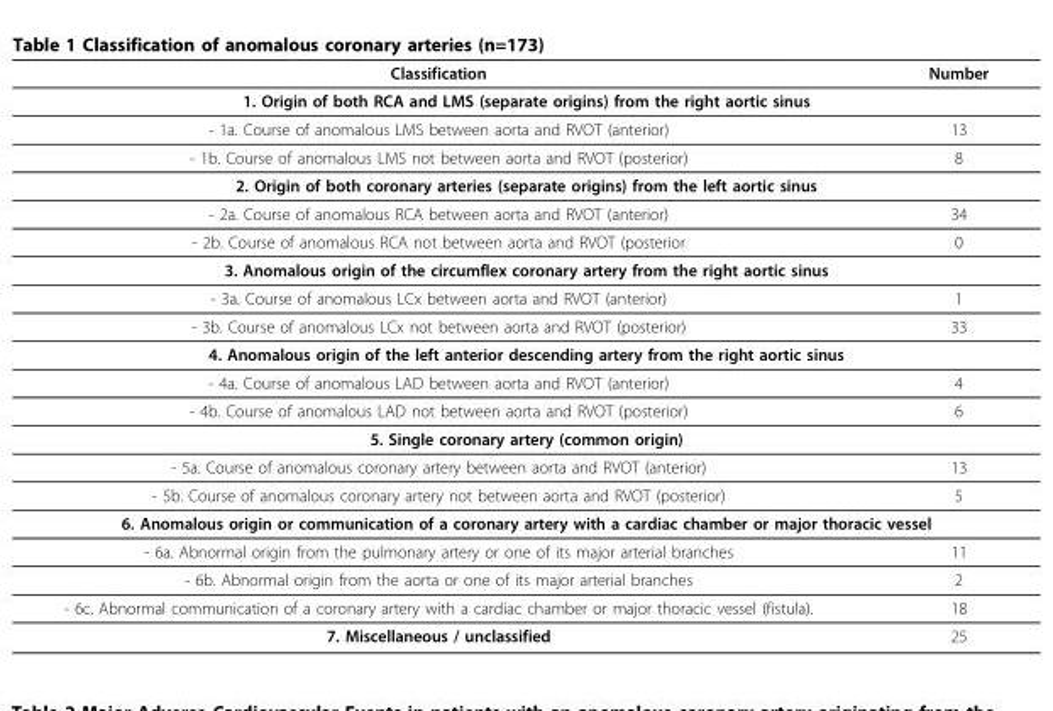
<table><thead><tr><td>Classification</td><td>Number</td></tr></thead><tbody><tr><td colspan="2">1. Origin of both RCA and LMS (separate origins) from the right aortic sinus</td></tr><tr><td>- 1a. Course of anomalous LMS between aorta and RVOT (anterior)</td><td>13</td></tr><tr><td>- 1b. Course of anomalous LMS not between aorta and RVOT (posterior)</td><td>8</td></tr><tr><td colspan="2">2. Origin of both coronary arteries (separate origins) from the left aortic sinus</td></tr><tr><td>- 2a. Course of anomalous RCA between aorta and RVOT (anterior)</td><td>34</td></tr><tr><td>- 2b. Course of anomalous RCA not between aorta and RVOT (posterior</td><td>0</td></tr><tr><td colspan="2">3. Anomalous origin of the circumflex coronary artery from the right aortic sinus</td></tr><tr><td>- 3a. Course of anomalous LCx between aorta and RVOT (anterior)</td><td>1</td></tr><tr><td>- 3b. Course of anomalous LCx not between aorta and RVOT (posterior)</td><td>33</td></tr><tr><td colspan="2">4. Anomalous origin of the left anterior descending artery from the right aortic sinus</td></tr><tr><td>- 4a. Course of anomalous LAD between aorta and RVOT (anterior)</td><td>4</td></tr><tr><td>- 4b. Course of anomalous LAD not between aorta and RVOT (posterior)</td><td>6</td></tr><tr><td colspan="2">5. Single coronary artery (common origin)</td></tr><tr><td>- 5a. Course of anomalous coronary artery between aorta and RVOT (anterior)</td><td>13</td></tr><tr><td>- 5b. Course of anomalous coronary artery not between aorta and RVOT (posterior)</td><td>5</td></tr><tr><td colspan="2">6. Anomalous origin or communication of a coronary artery with a cardiac chamber or major thoracic vessel</td></tr><tr><td>- 6a. Abnormal origin from the pulmonary artery or one of its major arterial branches</td><td>11</td></tr><tr><td>- 6b. Abnormal origin from the aorta or one of its major arterial branches</td><td>2</td></tr><tr><td>- 6c. Abnormal communication of a coronary artery with a cardiac chamber or major thoracic vessel (fistula).</td><td>18</td></tr><tr><td>7. Miscellaneous / unclassified</td><td>25</td></tr></tbody></table>